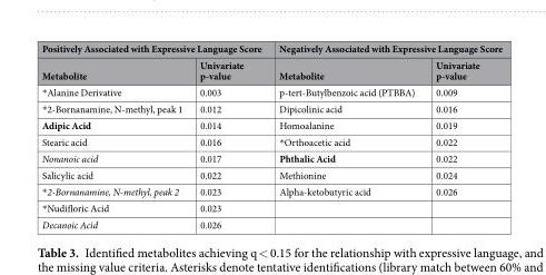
<table><thead><tr><td colspan="2">Positively Associated with Expressive Language Score</td><td colspan="2">Negatively Associated with Expressive Language Score</td></tr><tr><td>Metabolite</td><td>Univariate p-value</td><td>Metabolite</td><td>Univariate p-value</td></tr></thead><tbody><tr><td>*Alanine Derivative</td><td>0.003</td><td>p-tert-Butylbenzoic acid (PTBBA)</td><td>0.009</td></tr><tr><td>*2-Bornanamine, N-methyl, peak 1</td><td>0.012</td><td>Dipicolinic acid</td><td>0.016</td></tr><tr><td>Adipic Acid</td><td>0.014</td><td>Homoalanine</td><td>0.019</td></tr><tr><td>Stearic acid</td><td>0.016</td><td>*Orthoacetic acid</td><td>0.022</td></tr><tr><td>Nonanoic acid</td><td>0.017</td><td>Phthalic Acid</td><td>0.022</td></tr><tr><td>Salicylic acid</td><td>0.022</td><td>Methionine</td><td>0.024</td></tr><tr><td>*2-Bornanamine, N-methyl, peak 2</td><td>0.023</td><td>Alpha-ketobutyric acid</td><td>0.026</td></tr><tr><td>*Nudifloric Acid</td><td>0.023</td><td></td><td></td></tr><tr><td>Decanoic Acid</td><td>0.026</td><td></td><td></td></tr></tbody></table>